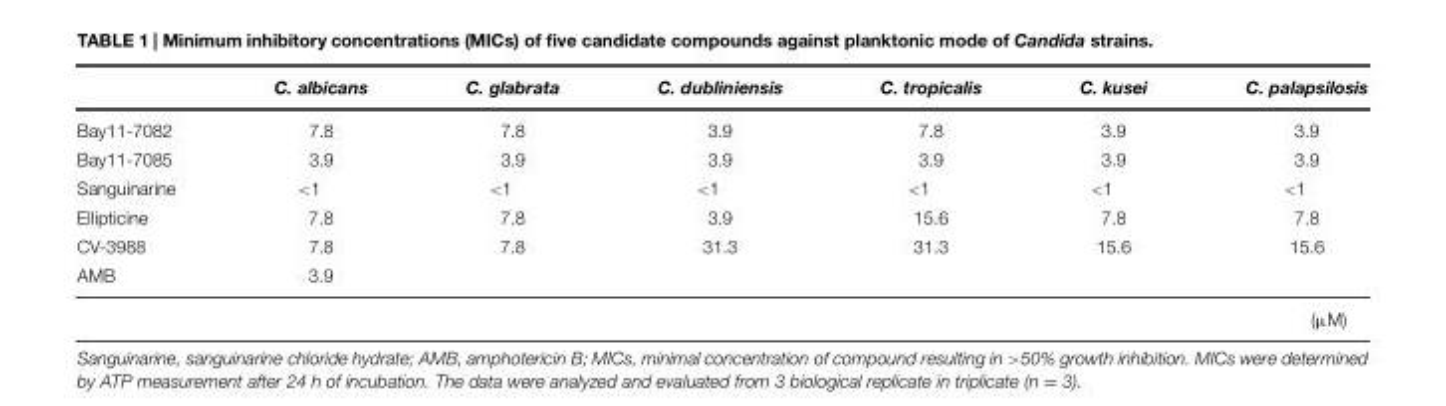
<table><thead><tr><td></td><td>C. albicans</td><td>C. glabrata</td><td>C. dubliniensis</td><td>C. tropicalis</td><td>C. kusei</td><td>C. palapsilosis</td></tr></thead><tbody><tr><td>Bay11-7082</td><td>7.8</td><td>7.8</td><td>3.9</td><td>7.8</td><td>3.9</td><td>3.9</td></tr><tr><td>Bay11-7085</td><td>3.9</td><td>3.9</td><td>3.9</td><td>3.9</td><td>3.9</td><td>3.9</td></tr><tr><td>Sanguinarine</td><td>&lt;1</td><td>&lt;1</td><td>&lt;1</td><td>&lt;1</td><td>&lt;1</td><td>&lt;1</td></tr><tr><td>Ellipticine</td><td>7.8</td><td>7.8</td><td>3.9</td><td>15.6</td><td>7.8</td><td>7.8</td></tr><tr><td>CV-3988</td><td>7.8</td><td>7.8</td><td>31.3</td><td>31.3</td><td>15.6</td><td>15.6</td></tr><tr><td rowspan="2">AMB</td><td>3.9</td><td></td><td></td><td></td><td></td><td></td></tr><tr><td></td><td></td><td></td><td></td><td></td><td>(μM)</td></tr></tbody></table>